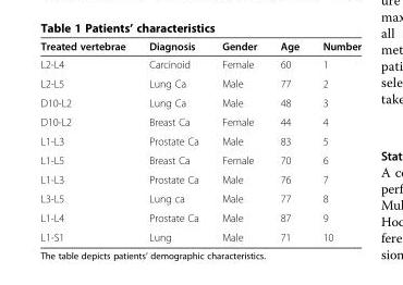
<table><thead><tr><td>Treated vertebrae</td><td>Diagnosis</td><td>Gender</td><td>Age</td><td>Number</td></tr></thead><tbody><tr><td>L2-L4</td><td>Carcinoid</td><td>Female</td><td>60</td><td>1</td></tr><tr><td>L2-L5</td><td>Lung Ca</td><td>Male</td><td>77</td><td>2</td></tr><tr><td>D10-L2</td><td>Lung Ca</td><td>Male</td><td>48</td><td>3</td></tr><tr><td>D10-L2</td><td>Breast Ca</td><td>Female</td><td>44</td><td>4</td></tr><tr><td>L1-L3</td><td>Prostate Ca</td><td>Male</td><td>83</td><td>5</td></tr><tr><td>L1-L5</td><td>Breast Ca</td><td>Female</td><td>70</td><td>6</td></tr><tr><td>L1-L3</td><td>Prostate Ca</td><td>Male</td><td>76</td><td>7</td></tr><tr><td>L3-L5</td><td>Lung ca</td><td>Male</td><td>77</td><td>8</td></tr><tr><td>L1-L4</td><td>Prostate Ca</td><td>Male</td><td>87</td><td>9</td></tr><tr><td>L1-S1</td><td>Lung</td><td>Male</td><td>71</td><td>10</td></tr></tbody></table>